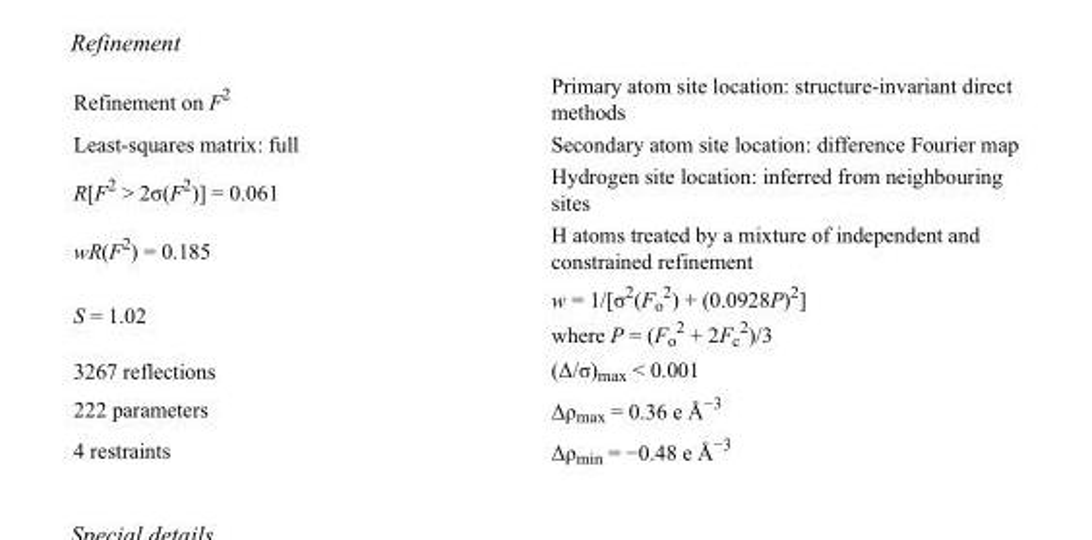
<table><tbody><tr><td>Refinement on F<sup>2</sup></td><td>Primary atom site location: structure-invariant direct methods</td></tr><tr><td>Least-squares matrix: full</td><td>Secondary atom site location: difference Fourier map</td></tr><tr><td>R[F<sup>2</sup> &gt; 2σ(F<sup>2</sup>)] = 0.061</td><td>Hydrogen site location: inferred from neighbouring sites</td></tr><tr><td>wR(F<sup>2</sup>) = 0.185</td><td>H atoms treated by a mixture of independent and constrained refinement</td></tr><tr><td>S = 1.02</td><td>w = 1/[σ<sup>2</sup>(F<sub>o</sub> <sup>2</sup>) + (0.0928P)<sup>2</sup>] where P = (F<sub>o</sub> <sup>2</sup> + 2F<sub>c</sub> <sup>2</sup>)/3</td></tr><tr><td>3267 reflections</td><td>(Δ/σ)<sub>max</sub> &lt; 0.001</td></tr><tr><td>222 parameters</td><td>Δρ<sub>max</sub> = 0.36 e Å<sup>−3</sup></td></tr><tr><td>4 restraints</td><td>Δρ<sub>min</sub> = −0.48 e Å<sup>−3</sup></td></tr></tbody></table>